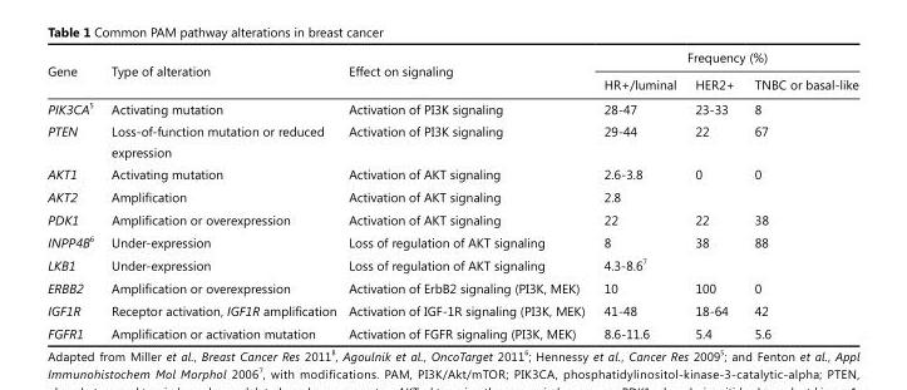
<table><thead><tr><td rowspan="2">Gene</td><td rowspan="2">Type of alteration</td><td rowspan="2">Effect on signaling</td><td colspan="3">Frequency (%)</td></tr><tr><td>HR+/luminal</td><td>HER2+</td><td>TNBC or basal-like</td></tr></thead><tbody><tr><td>PIK3CA <sup>5</sup></td><td>Activating mutation</td><td>Activation of PI3K signaling</td><td>28-47</td><td>23-33</td><td>8</td></tr><tr><td>PTEN</td><td>Loss-of-function mutation or reduced expression</td><td>Activation of PI3K signaling</td><td>29-44</td><td>22</td><td>67</td></tr><tr><td>AKT1</td><td>Activating mutation</td><td>Activation of AKT signaling</td><td>2.6-3.8</td><td>0</td><td>0</td></tr><tr><td>AKT2</td><td>Amplification</td><td>Activation of AKT signaling</td><td colspan="3">2.8</td></tr><tr><td>PDK1</td><td>Amplification or overexpression</td><td>Activation of AKT signaling</td><td>22</td><td>22</td><td>38</td></tr><tr><td>INPP4B <sup>6</sup></td><td>Under-expression</td><td>Loss of regulation of AKT signaling</td><td>8</td><td>38</td><td>88</td></tr><tr><td>LKB1</td><td>Under-expression</td><td>Loss of regulation of AKT signaling</td><td colspan="3">4.3-8.6 <sup>7</sup></td></tr><tr><td>ERBB2</td><td>Amplification or overexpression</td><td>Activation of ErbB2 signaling (PI3K, MEK)</td><td>10</td><td>100</td><td>0</td></tr><tr><td>IGF1R</td><td>Receptor activation, IGF1R amplification</td><td>Activation of IGF-1R signaling (PI3K, MEK)</td><td>41-48</td><td>18-64</td><td>42</td></tr><tr><td>FGFR1</td><td>Amplification or activation mutation</td><td>Activation of FGFR signaling (PI3K, MEK)</td><td>8.6-11.6</td><td>5.4</td><td>5.6</td></tr></tbody></table>